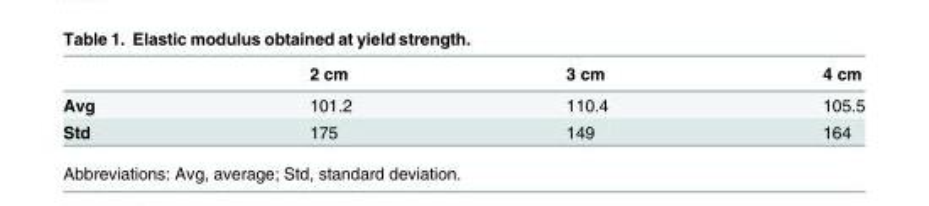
<table><thead><tr><td></td><td>2 cm</td><td>3 cm</td><td>4 cm</td></tr></thead><tbody><tr><td>Avg</td><td>101.2</td><td>110.4</td><td>105.5</td></tr><tr><td>Std</td><td>175</td><td>149</td><td>164</td></tr></tbody></table>